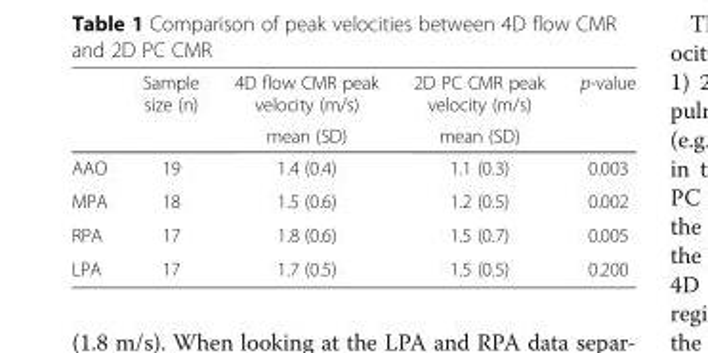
<table><thead><tr><td rowspan="2"></td><td rowspan="2">Sample size (n)</td><td rowspan="2">4D flow CMR peak velocity (m/s) mean (SD)</td><td rowspan="2">2D PC CMR peak velocity (m/s) mean (SD)</td><td rowspan="2">p-value</td></tr><tr></tr></thead><tbody><tr><td>AAO</td><td>19</td><td>1.4 (0.4)</td><td>1.1 (0.3)</td><td>0.003</td></tr><tr><td>MPA</td><td>18</td><td>1.5 (0.6)</td><td>1.2 (0.5)</td><td>0.002</td></tr><tr><td>RPA</td><td>17</td><td>1.8 (0.6)</td><td>1.5 (0.7)</td><td>0.005</td></tr><tr><td>LPA</td><td>17</td><td>1.7 (0.5)</td><td>1.5 (0.5)</td><td>0.200</td></tr></tbody></table>